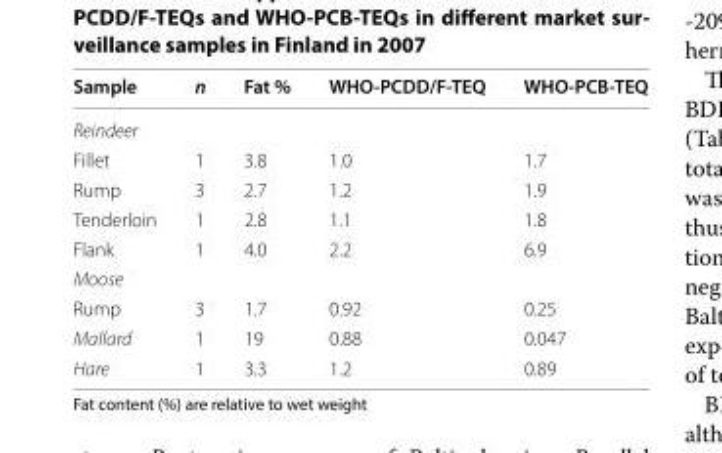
<table><thead><tr><td>Sample</td><td>n</td><td>Fat %</td><td>WHO‑PCDD/F‑TEQ</td><td>WHO‑PCB‑TEQ</td></tr></thead><tbody><tr><td colspan="5">Reindeer</td></tr><tr><td>Fillet</td><td>1</td><td>3.8</td><td>1.0</td><td>1.7</td></tr><tr><td>Rump</td><td>3</td><td>2.7</td><td>1.2</td><td>1.9</td></tr><tr><td>Tenderloin</td><td>1</td><td>2.8</td><td>1.1</td><td>1.8</td></tr><tr><td>Flank</td><td>1</td><td>4.0</td><td>2.2</td><td>6.9</td></tr><tr><td colspan="5">Moose</td></tr><tr><td>Rump</td><td>3</td><td>1.7</td><td>0.92</td><td>0.25</td></tr><tr><td>Mallard</td><td>1</td><td>19</td><td>0.88</td><td>0.047</td></tr><tr><td>Hare</td><td>1</td><td>3.3</td><td>1.2</td><td>0.89</td></tr></tbody></table>